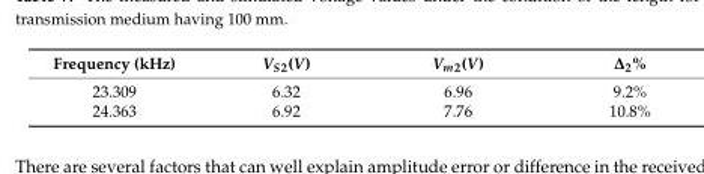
<table><thead><tr><td>Frequency (kHz)</td><td>V<sub>S2</sub>(V)</td><td>V<sub>m2</sub>(V)</td><td>∆2%</td></tr></thead><tbody><tr><td>23.309</td><td>6.32</td><td>6.96</td><td>9.2%</td></tr><tr><td>24.363</td><td>6.92</td><td>7.76</td><td>10.8%</td></tr></tbody></table>